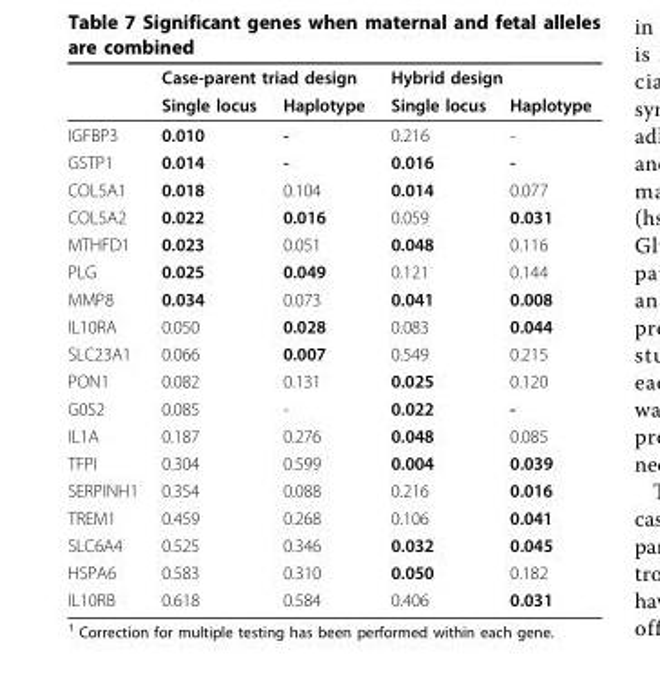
<table><thead><tr><td rowspan="2"></td><td colspan="2">Case-parent triad design</td><td colspan="2">Hybrid design</td></tr><tr><td>Single locus</td><td>Haplotype</td><td>Single locus</td><td>Haplotype</td></tr></thead><tbody><tr><td>IGFBP3</td><td>0.010</td><td>-</td><td>0.216</td><td>-</td></tr><tr><td>GSTP1</td><td>0.014</td><td>-</td><td>0.016</td><td>-</td></tr><tr><td>COL5A1</td><td>0.018</td><td>0.104</td><td>0.014</td><td>0.077</td></tr><tr><td>COL5A2</td><td>0.022</td><td>0.016</td><td>0.059</td><td>0.031</td></tr><tr><td>MTHFD1</td><td>0.023</td><td>0.051</td><td>0.048</td><td>0.116</td></tr><tr><td>PLG</td><td>0.025</td><td>0.049</td><td>0.121</td><td>0.144</td></tr><tr><td>MMP8</td><td>0.034</td><td>0.073</td><td>0.041</td><td>0.008</td></tr><tr><td>IL10RA</td><td>0.050</td><td>0.028</td><td>0.083</td><td>0.044</td></tr><tr><td>SLC23A1</td><td>0.066</td><td>0.007</td><td>0.549</td><td>0.215</td></tr><tr><td>PON1</td><td>0.082</td><td>0.131</td><td>0.025</td><td>0.120</td></tr><tr><td>G0S2</td><td>0.085</td><td>-</td><td>0.022</td><td>-</td></tr><tr><td>IL1A</td><td>0.187</td><td>0.276</td><td>0.048</td><td>0.085</td></tr><tr><td>TFPI</td><td>0.304</td><td>0.599</td><td>0.004</td><td>0.039</td></tr><tr><td>SERPINH1</td><td>0.354</td><td>0.088</td><td>0.216</td><td>0.016</td></tr><tr><td>TREM1</td><td>0.459</td><td>0.268</td><td>0.106</td><td>0.041</td></tr><tr><td>SLC6A4</td><td>0.525</td><td>0.346</td><td>0.032</td><td>0.045</td></tr><tr><td>HSPA6</td><td>0.583</td><td>0.310</td><td>0.050</td><td>0.182</td></tr><tr><td>IL10RB</td><td>0.618</td><td>0.584</td><td>0.406</td><td>0.031</td></tr></tbody></table>